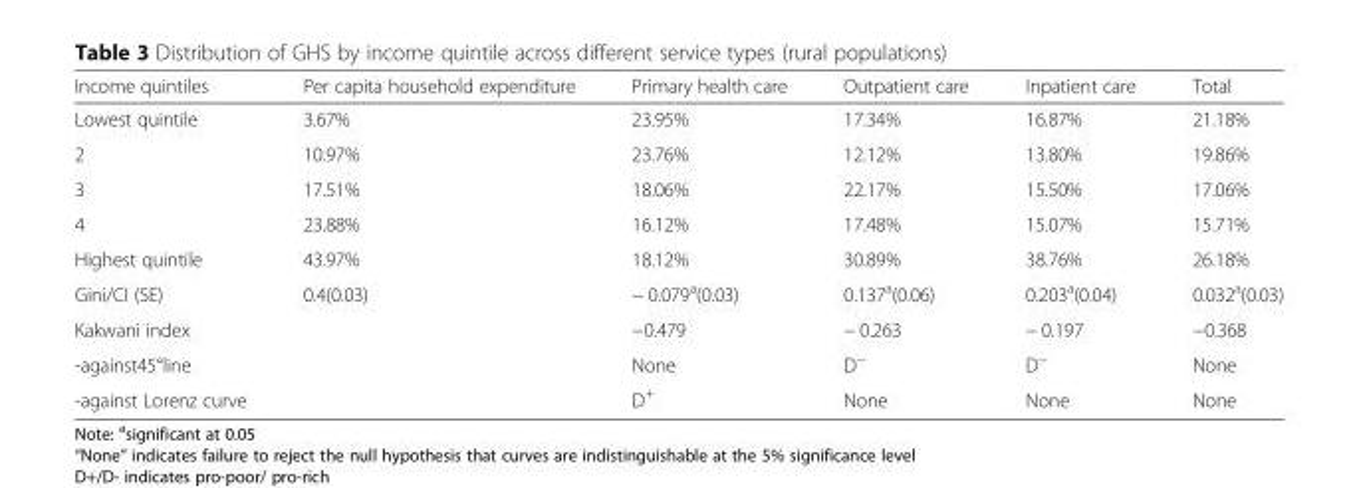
<table><thead><tr><td>Income quintiles</td><td>Per capita household expenditure</td><td>Primary health care</td><td>Outpatient care</td><td>Inpatient care</td><td>Total</td></tr></thead><tbody><tr><td>Lowest quintile</td><td>3.67%</td><td>23.95%</td><td>17.34%</td><td>16.87%</td><td>21.18%</td></tr><tr><td>2</td><td>10.97%</td><td>23.76%</td><td>12.12%</td><td>13.80%</td><td>19.86%</td></tr><tr><td>3</td><td>17.51%</td><td>18.06%</td><td>22.17%</td><td>15.50%</td><td>17.06%</td></tr><tr><td>4</td><td>23.88%</td><td>16.12%</td><td>17.48%</td><td>15.07%</td><td>15.71%</td></tr><tr><td>Highest quintile</td><td>43.97%</td><td>18.12%</td><td>30.89%</td><td>38.76%</td><td>26.18%</td></tr><tr><td>Gini/CI (SE)</td><td>0.4(0.03)</td><td>− 0.079<sup>a</sup>(0.03)</td><td>0.137<sup>a</sup>(0.06)</td><td>0.203<sup>a</sup>(0.04)</td><td>0.032<sup>a</sup>(0.03)</td></tr><tr><td>Kakwani index</td><td></td><td>−0.479</td><td>− 0.263</td><td>− 0.197</td><td>−0.368</td></tr><tr><td>-against45°line</td><td></td><td>None</td><td>D<sup>−</sup></td><td>D<sup>−</sup></td><td>None</td></tr><tr><td>-against Lorenz curve</td><td></td><td>D<sup>+</sup></td><td>None</td><td>None</td><td>None</td></tr></tbody></table>